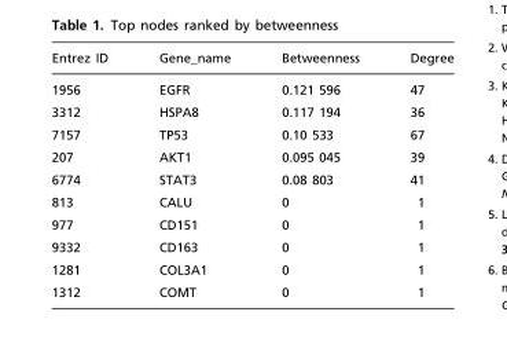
<table><thead><tr><td>Entrez ID</td><td>Gene_name</td><td>Betweenness</td><td>Degree</td></tr></thead><tbody><tr><td>1956</td><td>EGFR</td><td>0.121 596</td><td>47</td></tr><tr><td>3312</td><td>HSPA8</td><td>0.117 194</td><td>36</td></tr><tr><td>7157</td><td>TP53</td><td>0.10 533</td><td>67</td></tr><tr><td>207</td><td>AKT1</td><td>0.095 045</td><td>39</td></tr><tr><td>6774</td><td>STAT3</td><td>0.08 803</td><td>41</td></tr><tr><td>813</td><td>CALU</td><td>0</td><td>1</td></tr><tr><td>977</td><td>CD151</td><td>0</td><td>1</td></tr><tr><td>9332</td><td>CD163</td><td>0</td><td>1</td></tr><tr><td>1281</td><td>COL3A1</td><td>0</td><td>1</td></tr><tr><td>1312</td><td>COMT</td><td>0</td><td>1</td></tr></tbody></table>